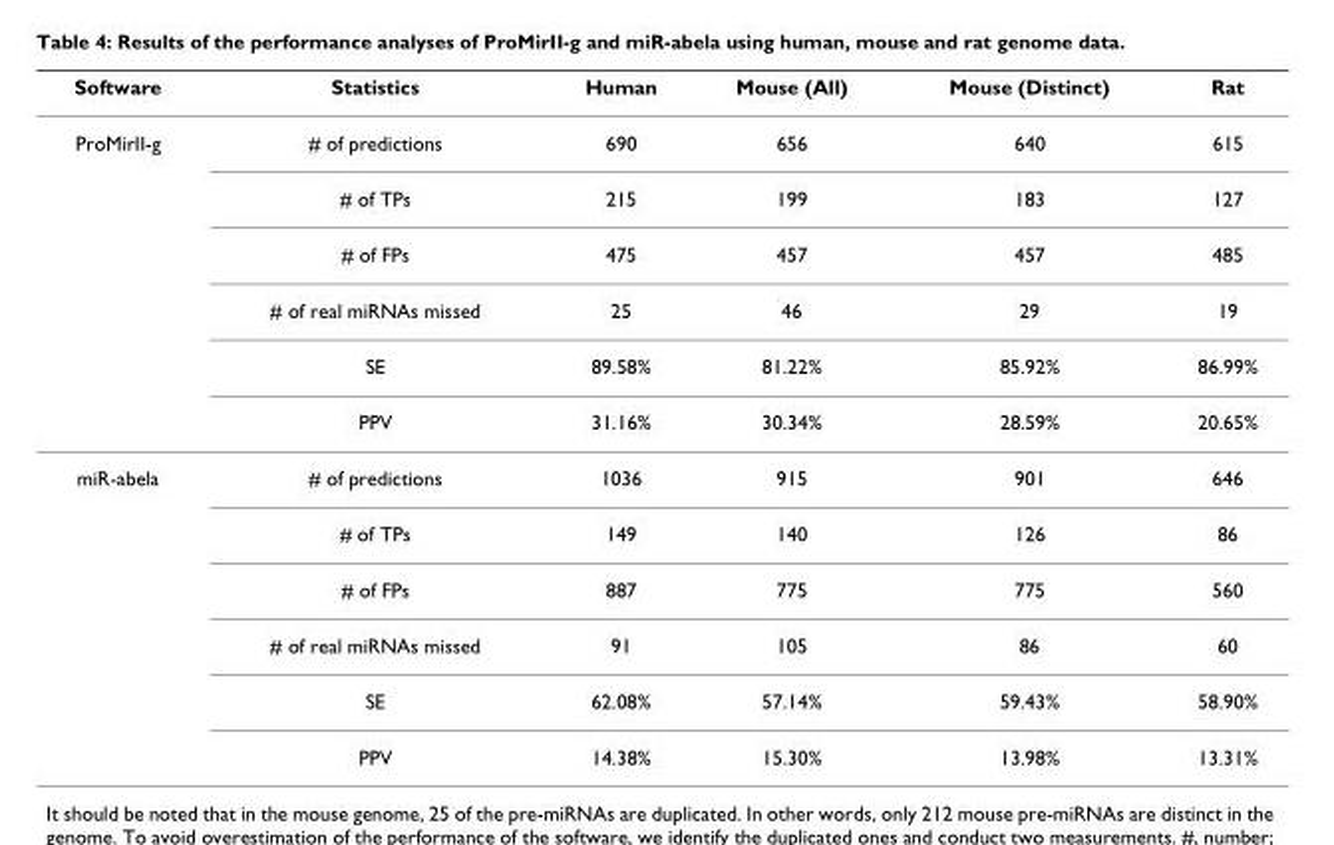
<table><thead><tr><td>Software</td><td>Statistics</td><td>Human</td><td>Mouse (All)</td><td>Mouse (Distinct)</td><td>Rat</td></tr></thead><tbody><tr><td rowspan="6">ProMirII-g</td><td># of predictions</td><td>690</td><td>656</td><td>640</td><td>615</td></tr><tr><td># of TPs</td><td>215</td><td>199</td><td>183</td><td>127</td></tr><tr><td># of FPs</td><td>475</td><td>457</td><td>457</td><td>485</td></tr><tr><td># of real miRNAs missed</td><td>25</td><td>46</td><td>29</td><td>19</td></tr><tr><td>SE</td><td>89.58%</td><td>81.22%</td><td>85.92%</td><td>86.99%</td></tr><tr><td>PPV</td><td>31.16%</td><td>30.34%</td><td>28.59%</td><td>20.65%</td></tr><tr><td rowspan="6">miR-abela</td><td># of predictions</td><td>1036</td><td>915</td><td>901</td><td>646</td></tr><tr><td># of TPs</td><td>149</td><td>140</td><td>126</td><td>86</td></tr><tr><td># of FPs</td><td>887</td><td>775</td><td>775</td><td>560</td></tr><tr><td># of real miRNAs missed</td><td>91</td><td>105</td><td>86</td><td>60</td></tr><tr><td>SE</td><td>62.08%</td><td>57.14%</td><td>59.43%</td><td>58.90%</td></tr><tr><td>PPV</td><td>14.38%</td><td>15.30%</td><td>13.98%</td><td>13.31%</td></tr></tbody></table>